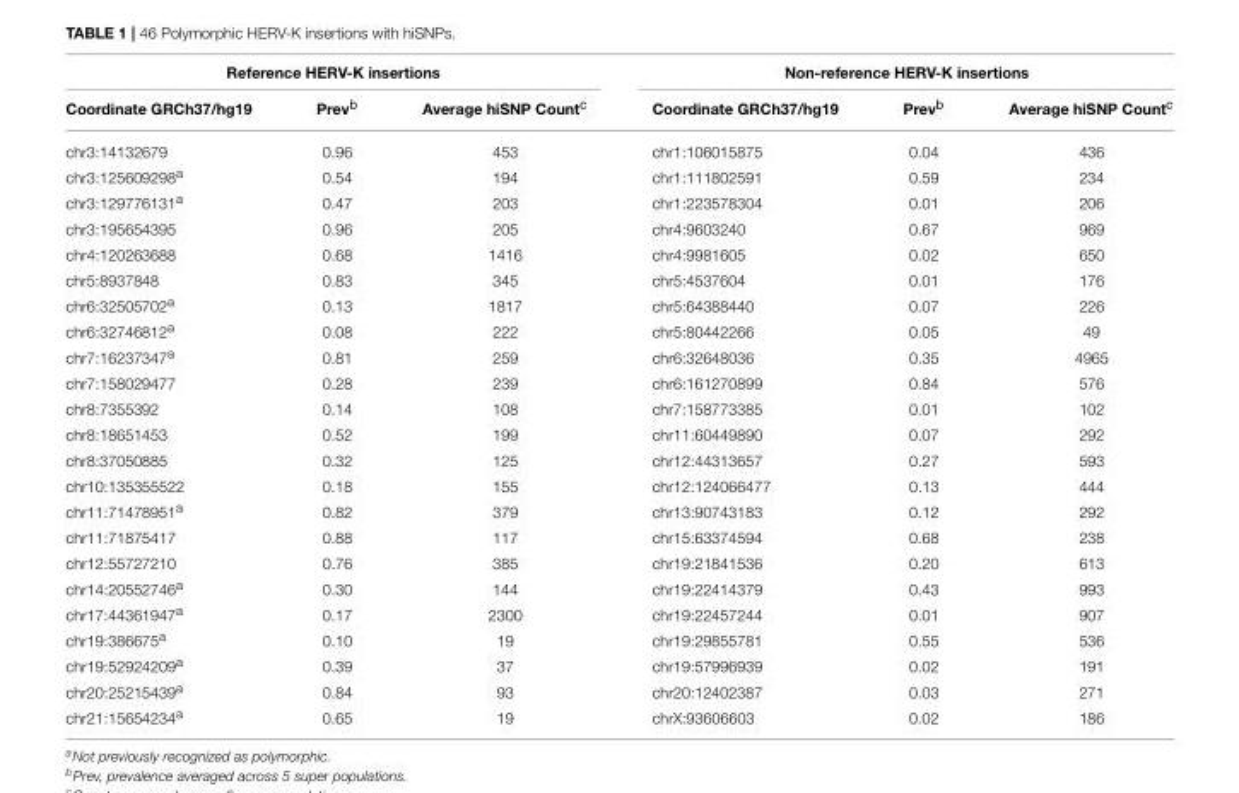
<table><thead><tr><td colspan="3">Reference HERV-K insertions</td><td colspan="3">Non-reference HERV-K insertions</td></tr><tr><td>Coordinate GRCh37/hg19</td><td>Prev<sup>b</sup></td><td>Average hiSNP Count<sup>c</sup></td><td>Coordinate GRCh37/hg19</td><td>Prev<sup>b</sup></td><td>Average hiSNP Count<sup>c</sup></td></tr></thead><tbody><tr><td>chr3:14132679</td><td>0.96</td><td>453</td><td>chr1:106015875</td><td>0.04</td><td>436</td></tr><tr><td>chr3:125609298<sup>a</sup></td><td>0.54</td><td>194</td><td>chr1:111802591</td><td>0.59</td><td>234</td></tr><tr><td>chr3:129776131<sup>a</sup></td><td>0.47</td><td>203</td><td>chr1:223578304</td><td>0.01</td><td>206</td></tr><tr><td>chr3:195654395</td><td>0.96</td><td>205</td><td>chr4:9603240</td><td>0.67</td><td>969</td></tr><tr><td>chr4:120263688</td><td>0.68</td><td>1416</td><td>chr4:9981605</td><td>0.02</td><td>650</td></tr><tr><td>chr5:8937848</td><td>0.83</td><td>345</td><td>chr5:4537604</td><td>0.01</td><td>176</td></tr><tr><td>chr6:32505702<sup>a</sup></td><td>0.13</td><td>1817</td><td>chr5:64388440</td><td>0.07</td><td>226</td></tr><tr><td>chr6:32746812<sup>a</sup></td><td>0.08</td><td>222</td><td>chr5:80442266</td><td>0.05</td><td>49</td></tr><tr><td>chr7:16237347<sup>a</sup></td><td>0.81</td><td>259</td><td>chr6:32648036</td><td>0.35</td><td>4965</td></tr><tr><td>chr7:158029477</td><td>0.28</td><td>239</td><td>chr6:161270899</td><td>0.84</td><td>576</td></tr><tr><td>chr8:7355392</td><td>0.14</td><td>108</td><td>chr7:158773385</td><td>0.01</td><td>102</td></tr><tr><td>chr8:18651453</td><td>0.52</td><td>199</td><td>chr11:60449890</td><td>0.07</td><td>292</td></tr><tr><td>chr8:37050885</td><td>0.32</td><td>125</td><td>chr12:44313657</td><td>0.27</td><td>593</td></tr><tr><td>chr10:135355522</td><td>0.18</td><td>155</td><td>chr12:124066477</td><td>0.13</td><td>444</td></tr><tr><td>chr11:71478951<sup>a</sup></td><td>0.82</td><td>379</td><td>chr13:90743183</td><td>0.12</td><td>292</td></tr><tr><td>chr11:71875417</td><td>0.88</td><td>117</td><td>chr15:63374594</td><td>0.68</td><td>238</td></tr><tr><td>chr12:55727210</td><td>0.76</td><td>385</td><td>chr19:21841536</td><td>0.20</td><td>613</td></tr><tr><td>chr14:20552746<sup>a</sup></td><td>0.30</td><td>144</td><td>chr19:22414379</td><td>0.43</td><td>993</td></tr><tr><td>chr17:44361947<sup>a</sup></td><td>0.17</td><td>2300</td><td>chr19:22457244</td><td>0.01</td><td>907</td></tr><tr><td>chr19:386675<sup>a</sup></td><td>0.10</td><td>19</td><td>chr19:29855781</td><td>0.55</td><td>536</td></tr><tr><td>chr19:52924209<sup>a</sup></td><td>0.39</td><td>37</td><td>chr19:57996939</td><td>0.02</td><td>191</td></tr><tr><td>chr20:25215439<sup>a</sup></td><td>0.84</td><td>93</td><td>chr20:12402387</td><td>0.03</td><td>271</td></tr><tr><td>chr21:15654234<sup>a</sup></td><td>0.65</td><td>19</td><td>chrX:93606603</td><td>0.02</td><td>186</td></tr></tbody></table>